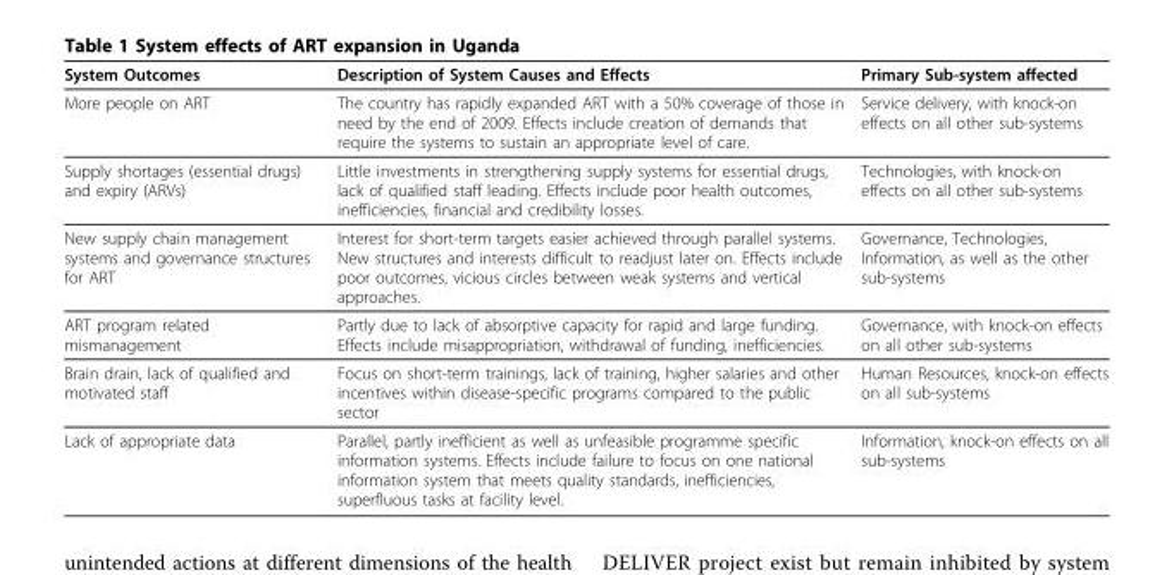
<table><thead><tr><td>System Outcomes</td><td>Description of System Causes and Effects</td><td>Primary Sub-system affected</td></tr></thead><tbody><tr><td>More people on ART</td><td>The country has rapidly expanded ART with a 50% coverage of those in need by the end of 2009. Effects include creation of demands that require the systems to sustain an appropriate level of care.</td><td>Service delivery, with knock-on effects on all other sub-systems</td></tr><tr><td>Supply shortages (essential drugs) and expiry (ARVs)</td><td>Little investments in strengthening supply systems for essential drugs, lack of qualified staff leading. Effects include poor health outcomes, inefficiencies, financial and credibility losses.</td><td>Technologies, with knock-on effects on all other sub-systems</td></tr><tr><td>New supply chain management systems and governance structures for ART</td><td>Interest for short-term targets easier achieved through parallel systems. New structures and interests difficult to readjust later on. Effects include poor outcomes, vicious circles between weak systems and vertical approaches.</td><td>Governance, Technologies, Information, as well as the other sub-systems</td></tr><tr><td>ART program related mismanagement</td><td>Partly due to lack of absorptive capacity for rapid and large funding. Effects include misappropriation, withdrawal of funding, inefficiencies.</td><td>Governance, with knock-on effects on all other sub-systems</td></tr><tr><td>Brain drain, lack of qualified and motivated staff</td><td>Focus on short-term trainings, lack of training, higher salaries and other incentives within disease-specific programs compared to the public sector</td><td>Human Resources, knock-on effects on all sub-systems</td></tr><tr><td>Lack of appropriate data</td><td>Parallel, partly inefficient as well as unfeasible programme specific information systems. Effects include failure to focus on one national information system that meets quality standards, inefficiencies, superfluous tasks at facility level.</td><td>Information, knock-on effects on all sub-systems</td></tr></tbody></table>